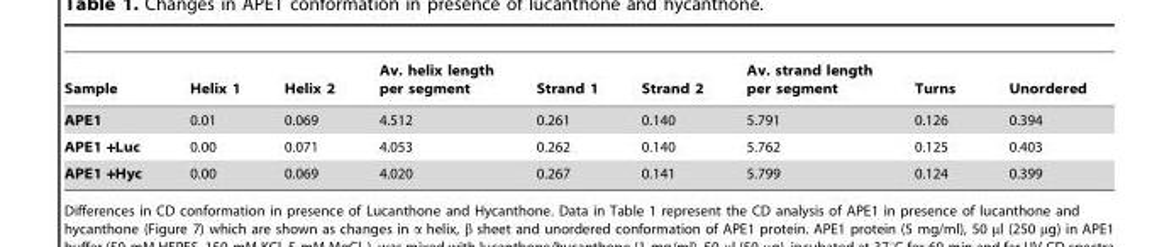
<table><thead><tr><td>Sample</td><td>Helix 1</td><td>Helix 2</td><td>Av. helix length per segment</td><td>Strand 1</td><td>Strand 2</td><td>Av. strand length per segment</td><td>Turns</td><td>Unordered</td></tr></thead><tbody><tr><td>APE1</td><td>0.01</td><td>0.069</td><td>4.512</td><td>0.261</td><td>0.140</td><td>5.791</td><td>0.126</td><td>0.394</td></tr><tr><td>APE1 +Luc</td><td>0.00</td><td>0.071</td><td>4.053</td><td>0.262</td><td>0.140</td><td>5.762</td><td>0.125</td><td>0.403</td></tr><tr><td>APE1 +Hyc</td><td>0.00</td><td>0.069</td><td>4.020</td><td>0.267</td><td>0.141</td><td>5.799</td><td>0.124</td><td>0.399</td></tr></tbody></table>